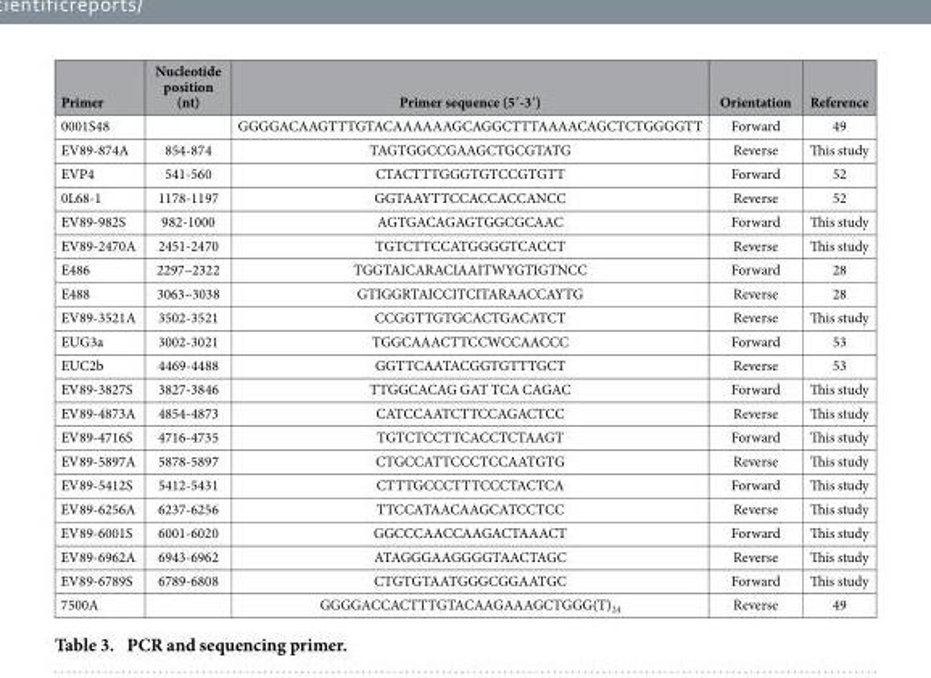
<table><thead><tr><td>Primer</td><td>Nucleotide position (nt)</td><td>Primer sequence (5′-3′)</td><td>Orientation</td><td>Reference</td></tr></thead><tbody><tr><td>0001S48</td><td></td><td>GGGGACAAGTTTGTACAAAAAAGCAGGCTTTAAAACAGCTCTGGGGTT</td><td>Forward</td><td>49</td></tr><tr><td>EV89-874A</td><td>854-874</td><td>TAGTGGCCGAAGCTGCGTATG</td><td>Reverse</td><td>This study</td></tr><tr><td>EVP4</td><td>541-560</td><td>CTACTTTGGGTGTCCGTGTT</td><td>Forward</td><td>52</td></tr><tr><td>0L68-1</td><td>1178-1197</td><td>GGTAAYTTCCACCACCANCC</td><td>Reverse</td><td>52</td></tr><tr><td>EV89-982S</td><td>982-1000</td><td>AGTGACAGAGTGGCGCAAC</td><td>Forward</td><td>This study</td></tr><tr><td>EV89-2470A</td><td>2451-2470</td><td>TGTCTTCCATGGGGTCACCT</td><td>Reverse</td><td>This study</td></tr><tr><td>E486</td><td>2297–2322</td><td>TGGTAICARACIAAITWYGTIGTNCC</td><td>Forward</td><td>28</td></tr><tr><td>E488</td><td>3063–3038</td><td>GTIGGRTAICCITCITARAACCAYTG</td><td>Reverse</td><td>28</td></tr><tr><td>EV89-3521A</td><td>3502-3521</td><td>CCGGTTGTGCACTGACATCT</td><td>Reverse</td><td>This study</td></tr><tr><td>EUG3a</td><td>3002-3021</td><td>TGGCAAACTTCCWCCAACCC</td><td>Forward</td><td>53</td></tr><tr><td>EUC2b</td><td>4469-4488</td><td>GGTTCAATACGGTGTTTGCT</td><td>Reverse</td><td>53</td></tr><tr><td>EV89-3827S</td><td>3827-3846</td><td>TTGGCACAG GAT TCA CAGAC</td><td>Forward</td><td>This study</td></tr><tr><td>EV89-4873A</td><td>4854-4873</td><td>CATCCAATCTTCCAGACTCC</td><td>Reverse</td><td>This study</td></tr><tr><td>EV89-4716S</td><td>4716-4735</td><td>TGTCTCCTTCACCTCTAAGT</td><td>Forward</td><td>This study</td></tr><tr><td>EV89-5897A</td><td>5878-5897</td><td>CTGCCATTCCCTCCAATGTG</td><td>Reverse</td><td>This study</td></tr><tr><td>EV89-5412S</td><td>5412-5431</td><td>CTTTGCCCTTTCCCTACTCA</td><td>Forward</td><td>This study</td></tr><tr><td>EV89-6256A</td><td>6237-6256</td><td>TTCCATAACAAGCATCCTCC</td><td>Reverse</td><td>This study</td></tr><tr><td>EV89-6001S</td><td>6001-6020</td><td>GGCCCAACCAAGACTAAACT</td><td>Forward</td><td>This study</td></tr><tr><td>EV89-6962A</td><td>6943-6962</td><td>ATAGGGAAGGGGTAACTAGC</td><td>Reverse</td><td>This study</td></tr><tr><td>EV89-6789S</td><td>6789-6808</td><td>CTGTGTAATGGGCGGAATGC</td><td>Forward</td><td>This study</td></tr><tr><td>7500A</td><td></td><td>GGGGACCACTTTGTACAAGAAAGCTGGG(T)<sub>24</sub></td><td>Reverse</td><td>49</td></tr></tbody></table>